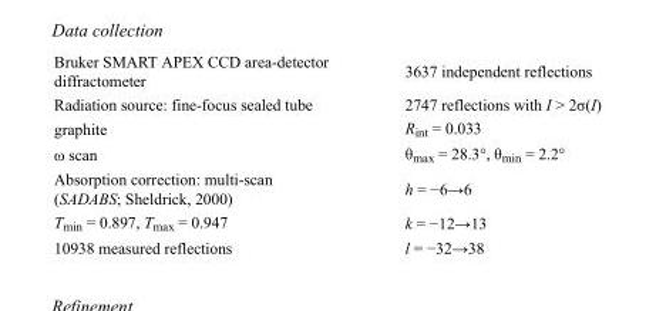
<table><tbody><tr><td>Bruker SMART APEX CCD area-detector diffractometer</td><td>3637 independent reflections</td></tr><tr><td>Radiation source: fine-focus sealed tube</td><td>2747 reflections with I &gt; 2σ(I)</td></tr><tr><td>graphite</td><td>R<sub>int</sub> = 0.033</td></tr><tr><td>ω scan</td><td>θ<sub>max</sub> = 28.3°, θ<sub>min</sub> = 2.2°</td></tr><tr><td>Absorption correction: multi-scan (SADABS; Sheldrick, 2000)</td><td>h = −6→6</td></tr><tr><td>T<sub>min</sub> = 0.897, T<sub>max</sub> = 0.947</td><td>k = −12→13</td></tr><tr><td>10938 measured reflections</td><td>l = −32→38</td></tr></tbody></table>